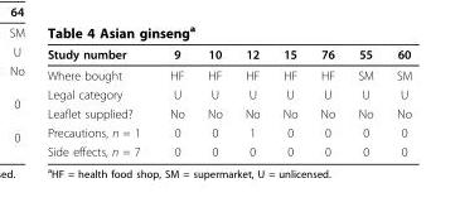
<table><thead><tr><td>Study number</td><td>9</td><td>10</td><td>12</td><td>15</td><td>76</td><td>55</td><td>60</td></tr></thead><tbody><tr><td>Where bought</td><td>HF</td><td>HF</td><td>HF</td><td>HF</td><td>HF</td><td>SM</td><td>SM</td></tr><tr><td>Legal category</td><td>U</td><td>U</td><td>U</td><td>U</td><td>U</td><td>U</td><td>U</td></tr><tr><td>Leaflet supplied?</td><td>No</td><td>No</td><td>No</td><td>No</td><td>No</td><td>No</td><td>No</td></tr><tr><td>Precautions, n = 1</td><td>0</td><td>0</td><td>1</td><td>0</td><td>0</td><td>0</td><td>0</td></tr><tr><td>Side effects, n = 7</td><td>0</td><td>0</td><td>0</td><td>0</td><td>0</td><td>0</td><td>0</td></tr></tbody></table>